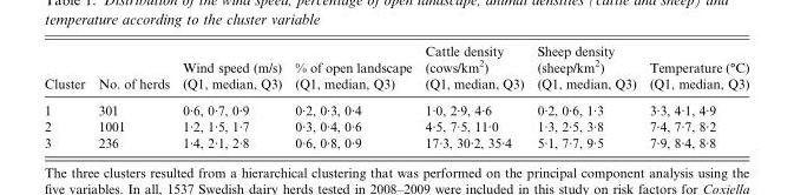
<table><thead><tr><td rowspan="2">Cluster</td><td rowspan="2">No. of herds</td><td rowspan="2">Wind speed (m/s) (Q1, median, Q3)</td><td rowspan="2">% of open landscape (Q1, median, Q3)</td><td rowspan="2">Cattle density (cows/km<sup>2</sup>) (Q1, median, Q3)</td><td rowspan="2">Sheep density (sheep/km<sup>2</sup>) (Q1, median, Q3)</td><td rowspan="2">Temperature (°C) (Q1, median, Q3)</td></tr><tr></tr></thead><tbody><tr><td>1</td><td>301</td><td>0·6, 0·7, 0·9</td><td>0·2, 0·3, 0·4</td><td>1·0, 2·9, 4·6</td><td>0·2, 0·6, 1·3</td><td>3·3, 4·1, 4·9</td></tr><tr><td>2</td><td>1001</td><td>1·2, 1·5, 1·7</td><td>0·3, 0·4, 0·6</td><td>4·5, 7·5, 11·0</td><td>1·3, 2·5, 3·8</td><td>7·4, 7·7, 8·2</td></tr><tr><td>3</td><td>236</td><td>1·4, 2·1, 2·8</td><td>0·6, 0·8, 0·9</td><td>17·3, 30·2, 35·4</td><td>5·1, 7·7, 9·5</td><td>7·9, 8·4, 8·8</td></tr></tbody></table>